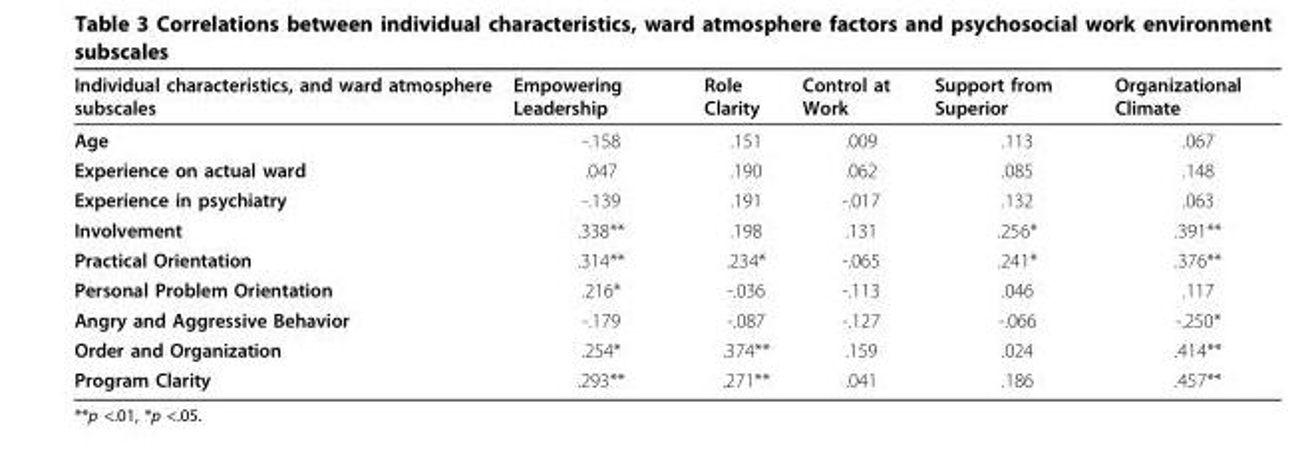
<table><thead><tr><td>Individual characteristics, and ward atmosphere subscales</td><td>Empowering Leadership</td><td>Role Clarity</td><td>Control at Work</td><td>Support from Superior</td><td>Organizational Climate</td></tr></thead><tbody><tr><td>Age</td><td>-.158</td><td>.151</td><td>.009</td><td>.113</td><td>.067</td></tr><tr><td>Experience on actual ward</td><td>.047</td><td>.190</td><td>.062</td><td>.085</td><td>.148</td></tr><tr><td>Experience in psychiatry</td><td>-.139</td><td>.191</td><td>-.017</td><td>.132</td><td>.063</td></tr><tr><td>Involvement</td><td>.338**</td><td>.198</td><td>.131</td><td>.256*</td><td>.391**</td></tr><tr><td>Practical Orientation</td><td>.314**</td><td>.234*</td><td>-.065</td><td>.241*</td><td>.376**</td></tr><tr><td>Personal Problem Orientation</td><td>.216*</td><td>-.036</td><td>-.113</td><td>.046</td><td>.117</td></tr><tr><td>Angry and Aggressive Behavior</td><td>-.179</td><td>-.087</td><td>-.127</td><td>-.066</td><td>-.250*</td></tr><tr><td>Order and Organization</td><td>.254*</td><td>.374**</td><td>.159</td><td>.024</td><td>.414**</td></tr><tr><td>Program Clarity</td><td>.293**</td><td>.271**</td><td>.041</td><td>.186</td><td>.457**</td></tr></tbody></table>